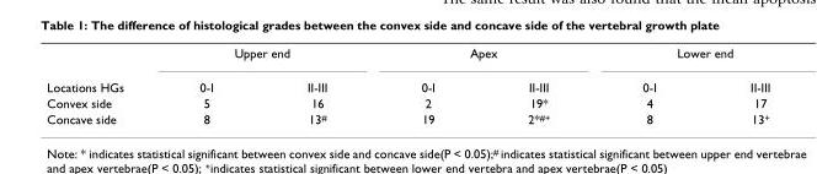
<table><thead><tr><td rowspan="2">Locations HGs</td><td colspan="2">Upper end</td><td colspan="2">Apex</td><td colspan="2">Lower end</td></tr><tr><td>0-I</td><td>II-III</td><td>0-I</td><td>II-III</td><td>0-I</td><td>II-III</td></tr></thead><tbody><tr><td>Convex side</td><td>5</td><td>16</td><td>2</td><td>19*</td><td>4</td><td>17</td></tr><tr><td>Concave side</td><td>8</td><td>13<sup>#</sup></td><td>19</td><td>2*<sup>#+</sup></td><td>8</td><td>13<sup>+</sup></td></tr></tbody></table>